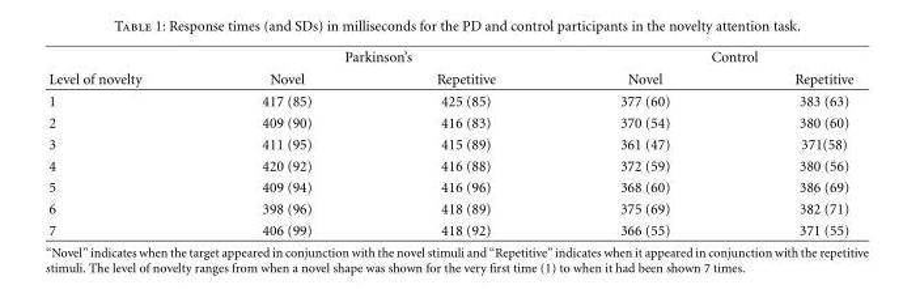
<table><thead><tr><td rowspan="2">Level of novelty</td><td colspan="2">Parkinson’s</td><td colspan="2">Control</td></tr><tr><td>Novel</td><td>Repetitive</td><td>Novel</td><td>Repetitive</td></tr></thead><tbody><tr><td>1</td><td>417 (85)</td><td>425 (85)</td><td>377 (60)</td><td>383 (63)</td></tr><tr><td>2</td><td>409 (90)</td><td>416 (83)</td><td>370 (54)</td><td>380 (60)</td></tr><tr><td>3</td><td>411 (95)</td><td>415 (89)</td><td>361 (47)</td><td>371(58)</td></tr><tr><td>4</td><td>420 (92)</td><td>416 (88)</td><td>372 (59)</td><td>380 (56)</td></tr><tr><td>5</td><td>409 (94)</td><td>416 (96)</td><td>368 (60)</td><td>386 (69)</td></tr><tr><td>6</td><td>398 (96)</td><td>418 (89)</td><td>375 (69)</td><td>382 (71)</td></tr><tr><td>7</td><td>406 (99)</td><td>418 (92)</td><td>366 (55)</td><td>371 (55)</td></tr></tbody></table>